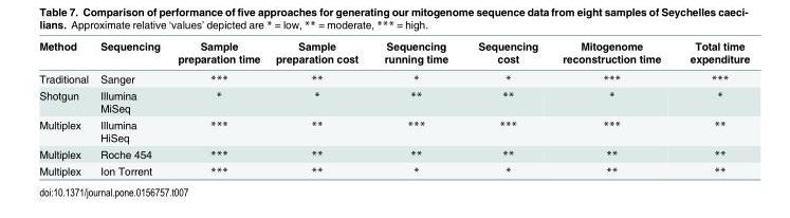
<table><thead><tr><td>Method</td><td>Sequencing</td><td>Sample preparation time</td><td>Sample preparation cost</td><td>Sequencing running time</td><td>Sequencing cost</td><td>Mitogenome reconstruction time</td><td>Total time expenditure</td></tr></thead><tbody><tr><td>Traditional</td><td>Sanger</td><td>***</td><td>**</td><td>*</td><td>*</td><td>***</td><td>***</td></tr><tr><td>Shotgun</td><td>Illumina MiSeq</td><td>*</td><td>*</td><td>**</td><td>**</td><td>*</td><td>*</td></tr><tr><td>Multiplex</td><td>Illumina HiSeq</td><td>***</td><td>**</td><td>***</td><td>***</td><td>***</td><td>**</td></tr><tr><td>Multiplex</td><td>Roche 454</td><td>***</td><td>**</td><td>**</td><td>**</td><td>**</td><td>**</td></tr><tr><td>Multiplex</td><td>Ion Torrent</td><td>***</td><td>**</td><td>*</td><td>*</td><td>**</td><td>**</td></tr></tbody></table>